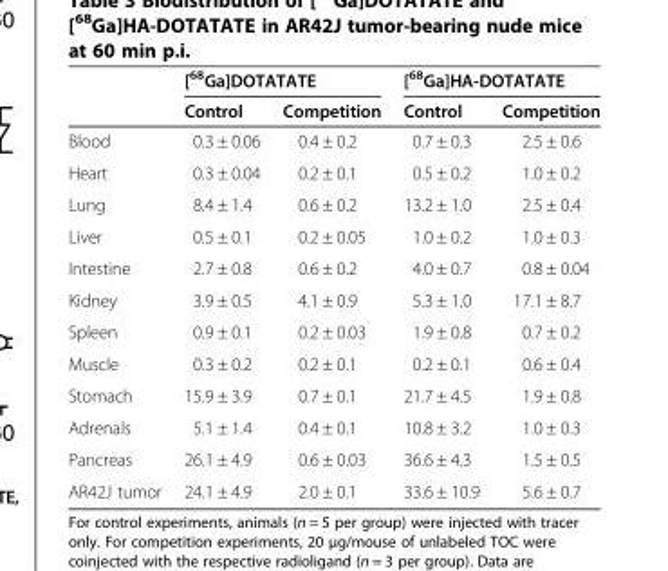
<table><thead><tr><td rowspan="2"></td><td colspan="2">[<sup>68</sup>Ga]DOTATATE</td><td colspan="2">[<sup>68</sup>Ga]HA-DOTATATE</td></tr><tr><td>Control</td><td>Competition</td><td>Control</td><td>Competition</td></tr></thead><tbody><tr><td>Blood</td><td>0.3 ± 0.06</td><td>0.4 ± 0.2</td><td>0.7 ± 0.3</td><td>2.5 ± 0.6</td></tr><tr><td>Heart</td><td>0.3 ± 0.04</td><td>0.2 ± 0.1</td><td>0.5 ± 0.2</td><td>1.0 ± 0.2</td></tr><tr><td>Lung</td><td>8.4 ± 1.4</td><td>0.6 ± 0.2</td><td>13.2 ± 1.0</td><td>2.5 ± 0.4</td></tr><tr><td>Liver</td><td>0.5 ± 0.1</td><td>0.2 ± 0.05</td><td>1.0 ± 0.2</td><td>1.0 ± 0.3</td></tr><tr><td>Intestine</td><td>2.7 ± 0.8</td><td>0.6 ± 0.2</td><td>4.0 ± 0.7</td><td>0.8 ± 0.04</td></tr><tr><td>Kidney</td><td>3.9 ± 0.5</td><td>4.1 ± 0.9</td><td>5.3 ± 1.0</td><td>17.1 ± 8.7</td></tr><tr><td>Spleen</td><td>0.9 ± 0.1</td><td>0.2 ± 0.03</td><td>1.9 ± 0.8</td><td>0.7 ± 0.2</td></tr><tr><td>Muscle</td><td>0.3 ± 0.2</td><td>0.2 ± 0.1</td><td>0.2 ± 0.1</td><td>0.6 ± 0.4</td></tr><tr><td>Stomach</td><td>15.9 ± 3.9</td><td>0.7 ± 0.1</td><td>21.7 ± 4.5</td><td>1.9 ± 0.8</td></tr><tr><td>Adrenals</td><td>5.1 ± 1.4</td><td>0.4 ± 0.1</td><td>10.8 ± 3.2</td><td>1.0 ± 0.3</td></tr><tr><td>Pancreas</td><td>26.1 ± 4.9</td><td>0.6 ± 0.03</td><td>36.6 ± 4.3</td><td>1.5 ± 0.5</td></tr><tr><td>AR42J tumor</td><td>24.1 ± 4.9</td><td>2.0 ± 0.1</td><td>33.6 ± 10.9</td><td>5.6 ± 0.7</td></tr></tbody></table>